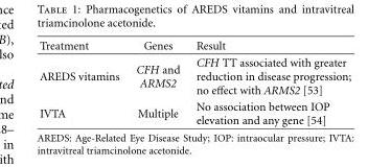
<table><thead><tr><td>Treatment</td><td>Genes</td><td>Result</td></tr></thead><tbody><tr><td>AREDS vitamins</td><td>CFH and ARMS2</td><td>CFH TT associated with greater reduction in disease progression; no effect with ARMS2 [53]</td></tr><tr><td>IVTA</td><td>Multiple</td><td>No association between IOP elevation and any gene [54]</td></tr></tbody></table>